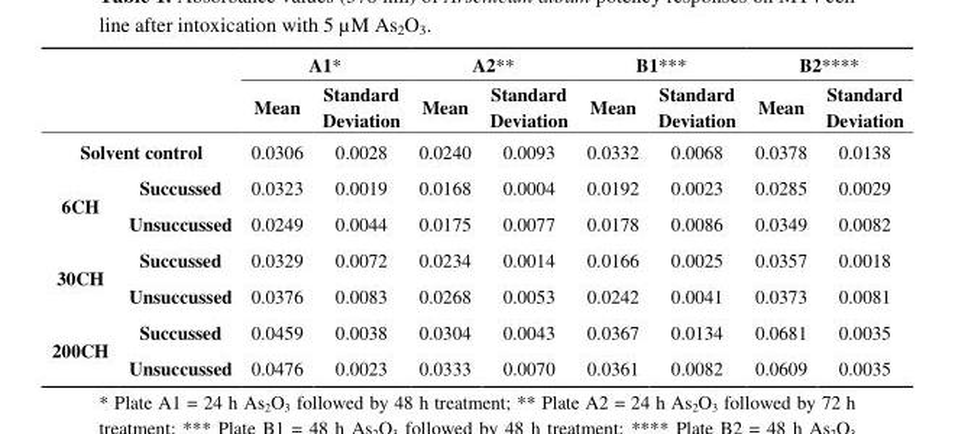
<table><thead><tr><td rowspan="2"></td><td rowspan="2"></td><td colspan="2">A1*</td><td colspan="2">A2**</td><td colspan="2">B1***</td><td colspan="2">B2****</td></tr><tr><td>Mean</td><td>Standard Deviation</td><td>Mean</td><td>Standard Deviation</td><td>Mean</td><td>Standard Deviation</td><td>Mean</td><td>Standard Deviation</td></tr></thead><tbody><tr><td colspan="2">Solvent control</td><td>0.0306</td><td>0.0028</td><td>0.0240</td><td>0.0093</td><td>0.0332</td><td>0.0068</td><td>0.0378</td><td>0.0138</td></tr><tr><td rowspan="2">6CH</td><td>Succussed</td><td>0.0323</td><td>0.0019</td><td>0.0168</td><td>0.0004</td><td>0.0192</td><td>0.0023</td><td>0.0285</td><td>0.0029</td></tr><tr><td>Unsuccussed</td><td>0.0249</td><td>0.0044</td><td>0.0175</td><td>0.0077</td><td>0.0178</td><td>0.0086</td><td>0.0349</td><td>0.0082</td></tr><tr><td rowspan="2">30CH</td><td>Succussed</td><td>0.0329</td><td>0.0072</td><td>0.0234</td><td>0.0014</td><td>0.0166</td><td>0.0025</td><td>0.0357</td><td>0.0018</td></tr><tr><td>Unsuccussed</td><td>0.0376</td><td>0.0083</td><td>0.0268</td><td>0.0053</td><td>0.0242</td><td>0.0041</td><td>0.0373</td><td>0.0081</td></tr><tr><td rowspan="2">200CH</td><td>Succussed</td><td>0.0459</td><td>0.0038</td><td>0.0304</td><td>0.0043</td><td>0.0367</td><td>0.0134</td><td>0.0681</td><td>0.0035</td></tr><tr><td>Unsuccussed</td><td>0.0476</td><td>0.0023</td><td>0.0333</td><td>0.0070</td><td>0.0361</td><td>0.0082</td><td>0.0609</td><td>0.0035</td></tr></tbody></table>